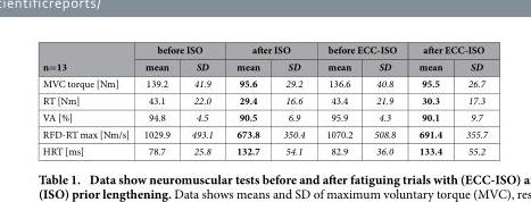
<table><thead><tr><td rowspan="2">n=13</td><td colspan="2">before ISO</td><td colspan="2">after ISO</td><td colspan="2">before ECC-ISO</td><td colspan="2">after ECC-ISO</td></tr><tr><td>mean</td><td>SD</td><td>mean</td><td>SD</td><td>mean</td><td>SD</td><td>mean</td><td>SD</td></tr></thead><tbody><tr><td>MVC torque [Nm]</td><td>139.2</td><td>41.9</td><td>95.6</td><td>29.2</td><td>136.6</td><td>40.8</td><td>95.5</td><td>26.7</td></tr><tr><td>RT [Nm]</td><td>43.1</td><td>22.0</td><td>29.4</td><td>16.6</td><td>43.4</td><td>21.9</td><td>30.3</td><td>17.3</td></tr><tr><td>VA [%]</td><td>94.8</td><td>4.5</td><td>90.5</td><td>6.9</td><td>95.9</td><td>4.3</td><td>90.1</td><td>9.7</td></tr><tr><td>RFD-RT max [Nm/s]</td><td>1029.9</td><td>493.1</td><td>673.8</td><td>350.4</td><td>1070.2</td><td>508.8</td><td>691.4</td><td>355.7</td></tr><tr><td>HRT [ms]</td><td>78.7</td><td>25.8</td><td>132.7</td><td>54.1</td><td>82.9</td><td>36.0</td><td>133.4</td><td>55.2</td></tr></tbody></table>